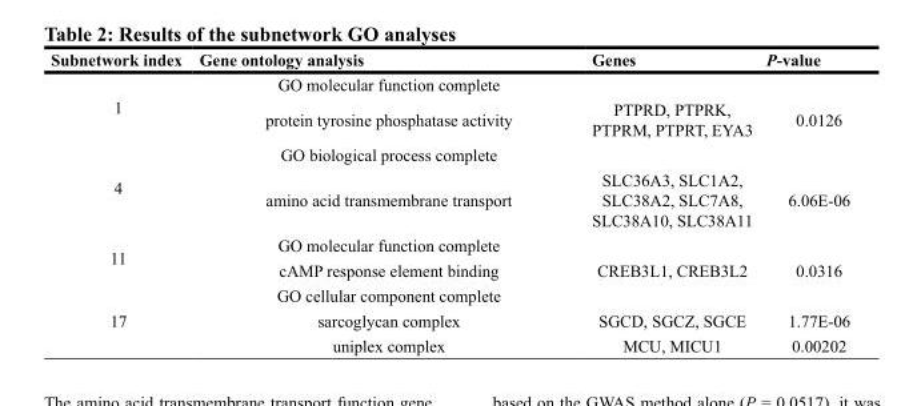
<table><thead><tr><td>Subnetwork index</td><td>Gene ontology analysis</td><td>Genes</td><td>P-value</td></tr></thead><tbody><tr><td rowspan="2">1</td><td>GO molecular function complete</td><td></td><td></td></tr><tr><td>protein tyrosine phosphatase activity</td><td>PTPRD, PTPRK, PTPRM, PTPRT, EYA3</td><td>0.0126</td></tr><tr><td rowspan="2">4</td><td>GO biological process complete</td><td></td><td></td></tr><tr><td>amino acid transmembrane transport</td><td>SLC36A3, SLC1A2, SLC38A2, SLC7A8, SLC38A10, SLC38A11</td><td>6.06E-06</td></tr><tr><td rowspan="2">11</td><td>GO molecular function complete</td><td></td><td></td></tr><tr><td>cAMP response element binding</td><td>CREB3L1, CREB3L2</td><td>0.0316</td></tr><tr><td rowspan="3">17</td><td>GO cellular component complete</td><td></td><td></td></tr><tr><td>sarcoglycan complex</td><td>SGCD, SGCZ, SGCE</td><td>1.77E-06</td></tr><tr><td>uniplex complex</td><td>MCU, MICU1</td><td>0.00202</td></tr></tbody></table>